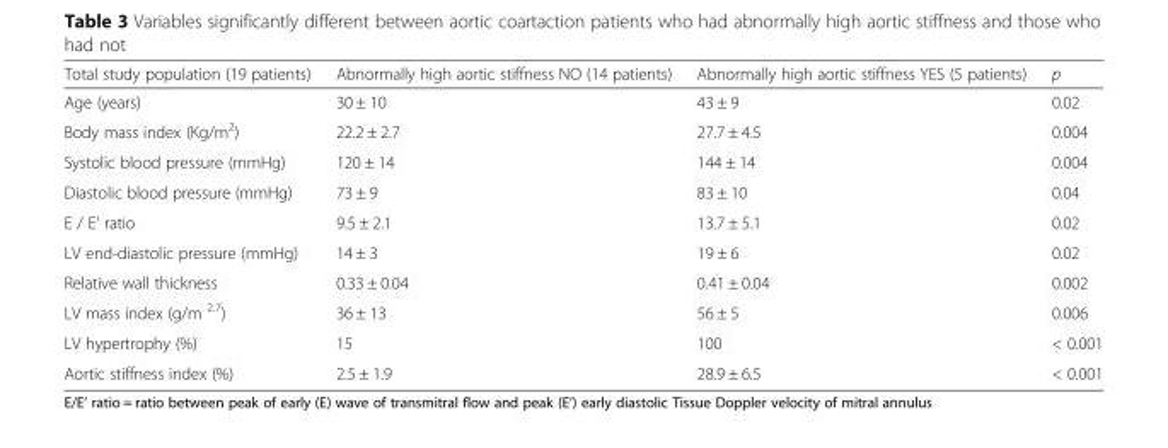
<table><thead><tr><td>Total study population (19 patients)</td><td>Abnormally high aortic stiffness NO (14 patients)</td><td>Abnormally high aortic stiffness YES (5 patients)</td><td>p</td></tr></thead><tbody><tr><td>Age (years)</td><td>30 ± 10</td><td>43 ± 9</td><td>0.02</td></tr><tr><td>Body mass index (Kg/m<sup>2</sup>)</td><td>22.2 ± 2.7</td><td>27.7 ± 4.5</td><td>0.004</td></tr><tr><td>Systolic blood pressure (mmHg)</td><td>120 ± 14</td><td>144 ± 14</td><td>0.004</td></tr><tr><td>Diastolic blood pressure (mmHg)</td><td>73 ± 9</td><td>83 ± 10</td><td>0.04</td></tr><tr><td>E / E’ ratio</td><td>9.5 ± 2.1</td><td>13.7 ± 5.1</td><td>0.02</td></tr><tr><td>LV end-diastolic pressure (mmHg)</td><td>14 ± 3</td><td>19 ± 6</td><td>0.02</td></tr><tr><td>Relative wall thickness</td><td>0.33 ± 0.04</td><td>0.41 ± 0.04</td><td>0.002</td></tr><tr><td>LV mass index (g/m <sup>2.7</sup>)</td><td>36 ± 13</td><td>56 ± 5</td><td>0.006</td></tr><tr><td>LV hypertrophy (%)</td><td>15</td><td>100</td><td>&lt; 0.001</td></tr><tr><td>Aortic stiffness index (%)</td><td>2.5 ± 1.9</td><td>28.9 ± 6.5</td><td>&lt; 0.001</td></tr></tbody></table>